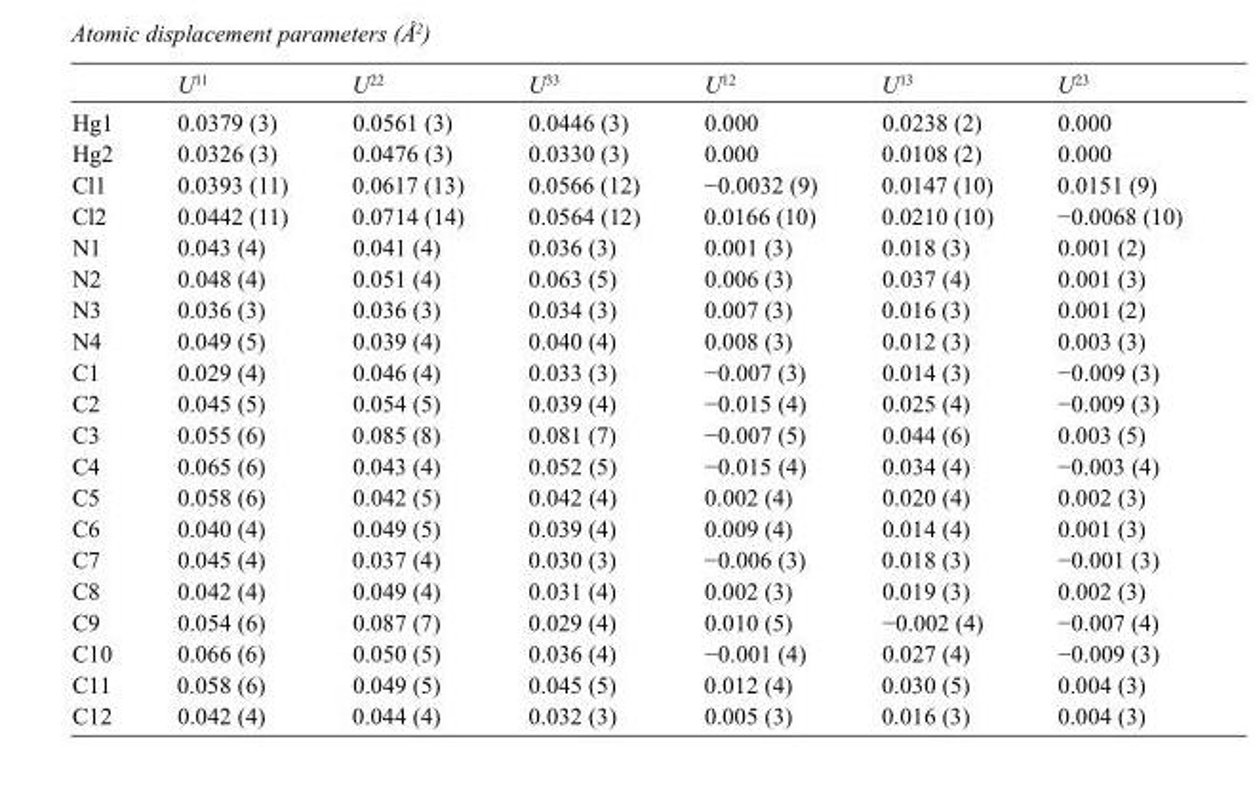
<table><thead><tr><td></td><td>U<sup>11</sup></td><td>U<sup>22</sup></td><td>U<sup>33</sup></td><td>U<sup>12</sup></td><td>U<sup>13</sup></td><td>U<sup>23</sup></td></tr></thead><tbody><tr><td>Hg1</td><td>0.0379 (3)</td><td>0.0561 (3)</td><td>0.0446 (3)</td><td>0.000</td><td>0.0238 (2)</td><td>0.000</td></tr><tr><td>Hg2</td><td>0.0326 (3)</td><td>0.0476 (3)</td><td>0.0330 (3)</td><td>0.000</td><td>0.0108 (2)</td><td>0.000</td></tr><tr><td>Cl1</td><td>0.0393 (11)</td><td>0.0617 (13)</td><td>0.0566 (12)</td><td>−0.0032 (9)</td><td>0.0147 (10)</td><td>0.0151 (9)</td></tr><tr><td>Cl2</td><td>0.0442 (11)</td><td>0.0714 (14)</td><td>0.0564 (12)</td><td>0.0166 (10)</td><td>0.0210 (10)</td><td>−0.0068 (10)</td></tr><tr><td>N1</td><td>0.043 (4)</td><td>0.041 (4)</td><td>0.036 (3)</td><td>0.001 (3)</td><td>0.018 (3)</td><td>0.001 (2)</td></tr><tr><td>N2</td><td>0.048 (4)</td><td>0.051 (4)</td><td>0.063 (5)</td><td>0.006 (3)</td><td>0.037 (4)</td><td>0.001 (3)</td></tr><tr><td>N3</td><td>0.036 (3)</td><td>0.036 (3)</td><td>0.034 (3)</td><td>0.007 (3)</td><td>0.016 (3)</td><td>0.001 (2)</td></tr><tr><td>N4</td><td>0.049 (5)</td><td>0.039 (4)</td><td>0.040 (4)</td><td>0.008 (3)</td><td>0.012 (3)</td><td>0.003 (3)</td></tr><tr><td>C1</td><td>0.029 (4)</td><td>0.046 (4)</td><td>0.033 (3)</td><td>−0.007 (3)</td><td>0.014 (3)</td><td>−0.009 (3)</td></tr><tr><td>C2</td><td>0.045 (5)</td><td>0.054 (5)</td><td>0.039 (4)</td><td>−0.015 (4)</td><td>0.025 (4)</td><td>−0.009 (3)</td></tr><tr><td>C3</td><td>0.055 (6)</td><td>0.085 (8)</td><td>0.081 (7)</td><td>−0.007 (5)</td><td>0.044 (6)</td><td>0.003 (5)</td></tr><tr><td>C4</td><td>0.065 (6)</td><td>0.043 (4)</td><td>0.052 (5)</td><td>−0.015 (4)</td><td>0.034 (4)</td><td>−0.003 (4)</td></tr><tr><td>C5</td><td>0.058 (6)</td><td>0.042 (5)</td><td>0.042 (4)</td><td>0.002 (4)</td><td>0.020 (4)</td><td>0.002 (3)</td></tr><tr><td>C6</td><td>0.040 (4)</td><td>0.049 (5)</td><td>0.039 (4)</td><td>0.009 (4)</td><td>0.014 (4)</td><td>0.001 (3)</td></tr><tr><td>C7</td><td>0.045 (4)</td><td>0.037 (4)</td><td>0.030 (3)</td><td>−0.006 (3)</td><td>0.018 (3)</td><td>−0.001 (3)</td></tr><tr><td>C8</td><td>0.042 (4)</td><td>0.049 (4)</td><td>0.031 (4)</td><td>0.002 (3)</td><td>0.019 (3)</td><td>0.002 (3)</td></tr><tr><td>C9</td><td>0.054 (6)</td><td>0.087 (7)</td><td>0.029 (4)</td><td>0.010 (5)</td><td>−0.002 (4)</td><td>−0.007 (4)</td></tr><tr><td>C10</td><td>0.066 (6)</td><td>0.050 (5)</td><td>0.036 (4)</td><td>−0.001 (4)</td><td>0.027 (4)</td><td>−0.009 (3)</td></tr><tr><td>C11</td><td>0.058 (6)</td><td>0.049 (5)</td><td>0.045 (5)</td><td>0.012 (4)</td><td>0.030 (5)</td><td>0.004 (3)</td></tr><tr><td>C12</td><td>0.042 (4)</td><td>0.044 (4)</td><td>0.032 (3)</td><td>0.005 (3)</td><td>0.016 (3)</td><td>0.004 (3)</td></tr></tbody></table>